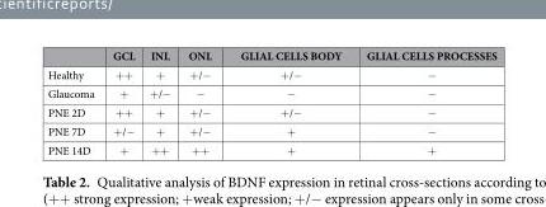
<table><thead><tr><td></td><td>GCL</td><td>INL</td><td>ONL</td><td>GLIAL CELLS BODY</td><td>GLIAL CELLS PROCESSES</td></tr></thead><tbody><tr><td>Healthy</td><td>++</td><td>+</td><td>+/−</td><td>+/−</td><td>−</td></tr><tr><td>Glaucoma</td><td>+</td><td>+/−</td><td>−</td><td>−</td><td>−</td></tr><tr><td>PNE 2D</td><td>++</td><td>+</td><td>+/−</td><td>+/−</td><td>−</td></tr><tr><td>PNE 7D</td><td>+/−</td><td>+</td><td>+/−</td><td>+</td><td>−</td></tr><tr><td>PNE 14D</td><td>+</td><td>++</td><td>++</td><td>+</td><td>+</td></tr></tbody></table>